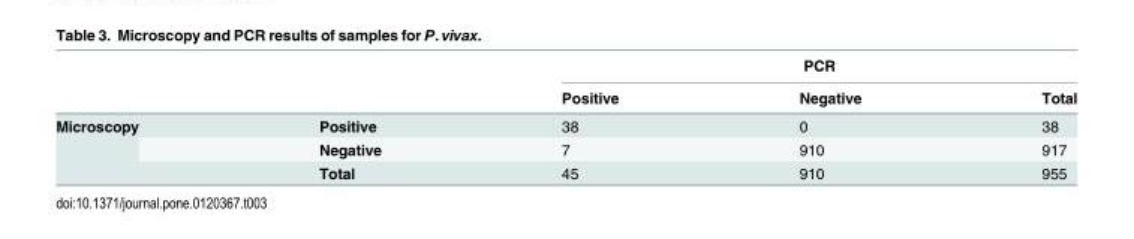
<table><thead><tr><td rowspan="2"></td><td rowspan="2"></td><td colspan="3">PCR</td></tr><tr><td>Positive</td><td>Negative</td><td>Total</td></tr></thead><tbody><tr><td rowspan="3">Microscopy</td><td>Positive</td><td>38</td><td>0</td><td>38</td></tr><tr><td>Negative</td><td>7</td><td>910</td><td>917</td></tr><tr><td>Total</td><td>45</td><td>910</td><td>955</td></tr></tbody></table>